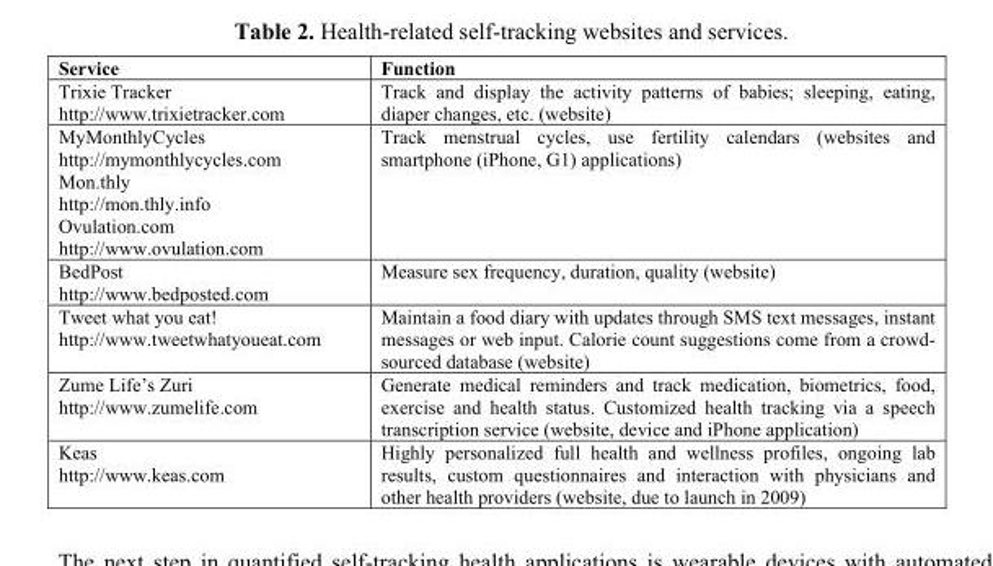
<table><thead><tr><td>Service</td><td>Function</td></tr></thead><tbody><tr><td>Trixie Tracker http://www.trixietracker.com</td><td>Track and display the activity patterns of babies; sleeping, eating, diaper changes, etc. (website)</td></tr><tr><td>MyMonthlyCycles http://mymonthlycycles.com Mon.thly http://mon.thly.info Ovulation.com http://www.ovulation.com</td><td>Track menstrual cycles, use fertility calendars (websites and smartphone (iPhone, G1) applications)</td></tr><tr><td>BedPost http://www.bedposted.com</td><td>Measure sex frequency, duration, quality (website)</td></tr><tr><td>Tweet what you eat! http://www.tweetwhatyoueat.com</td><td>Maintain a food diary with updates through SMS text messages, instant messages or web input. Calorie count suggestions come from a crowd- sourced database (website)</td></tr><tr><td>Zume Life’s Zuri http://www.zumelife.com</td><td>Generate medical reminders and track medication, biometrics, food, exercise and health status. Customized health tracking via a speech transcription service (website, device and iPhone application)</td></tr><tr><td>Keas http://www.keas.com</td><td>Highly personalized full health and wellness profiles, ongoing lab results, custom questionnaires and interaction with physicians and other health providers (website, due to launch in 2009)</td></tr></tbody></table>